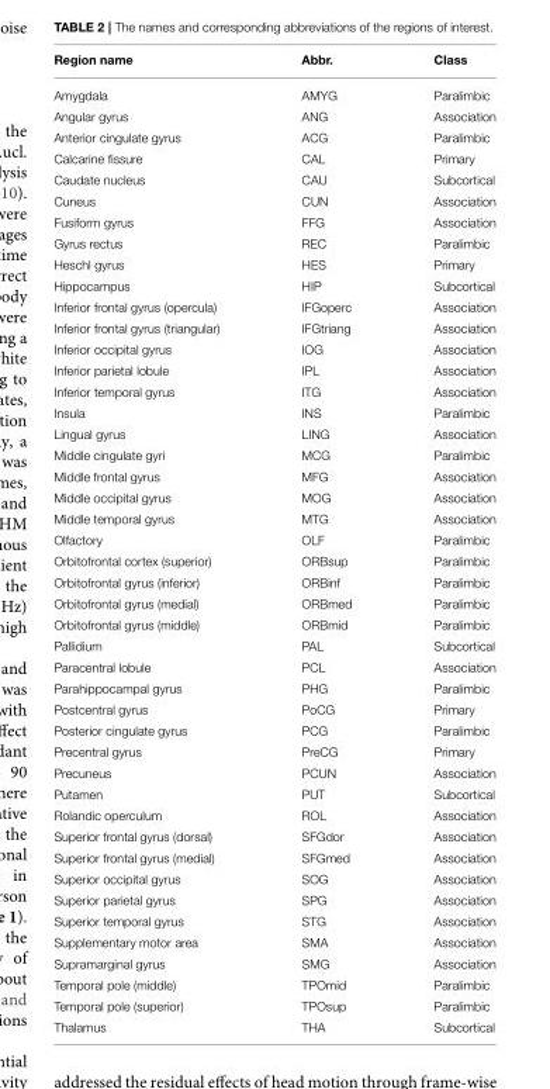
<table><thead><tr><td>Region name</td><td>Abbr.</td><td>Class</td></tr></thead><tbody><tr><td>Amygdala</td><td>AMYG</td><td>Paralimbic</td></tr><tr><td>Angular gyrus</td><td>ANG</td><td>Association</td></tr><tr><td>Anterior cingulate gyrus</td><td>ACG</td><td>Paralimbic</td></tr><tr><td>Calcarine fissure</td><td>CAL</td><td>Primary</td></tr><tr><td>Caudate nucleus</td><td>CAU</td><td>Subcortical</td></tr><tr><td>Cuneus</td><td>CUN</td><td>Association</td></tr><tr><td>Fusiform gyrus</td><td>FFG</td><td>Association</td></tr><tr><td>Gyrus rectus</td><td>REC</td><td>Paralimbic</td></tr><tr><td>Heschl gyrus</td><td>HES</td><td>Primary</td></tr><tr><td>Hippocampus</td><td>HIP</td><td>Subcortical</td></tr><tr><td>Inferior frontal gyrus (opercula)</td><td>IFGoperc</td><td>Association</td></tr><tr><td>Inferior frontal gyrus (triangular)</td><td>IFGtriang</td><td>Association</td></tr><tr><td>Inferior occipital gyrus</td><td>IOG</td><td>Association</td></tr><tr><td>Inferior parietal lobule</td><td>IPL</td><td>Association</td></tr><tr><td>Inferior temporal gyrus</td><td>ITG</td><td>Association</td></tr><tr><td>Insula</td><td>INS</td><td>Paralimbic</td></tr><tr><td>Lingual gyrus</td><td>LING</td><td>Association</td></tr><tr><td>Middle cingulate gyri</td><td>MCG</td><td>Paralimbic</td></tr><tr><td>Middle frontal gyrus</td><td>MFG</td><td>Association</td></tr><tr><td>Middle occipital gyrus</td><td>MOG</td><td>Association</td></tr><tr><td>Middle temporal gyrus</td><td>MTG</td><td>Association</td></tr><tr><td>Olfactory</td><td>OLF</td><td>Paralimbic</td></tr><tr><td>Orbitofrontal cortex (superior)</td><td>ORBsup</td><td>Paralimbic</td></tr><tr><td>Orbitofrontal gyrus (inferior)</td><td>ORBinf</td><td>Paralimbic</td></tr><tr><td>Orbitofrontal gyrus (medial)</td><td>ORBmed</td><td>Paralimbic</td></tr><tr><td>Orbitofrontal gyrus (middle)</td><td>ORBmid</td><td>Paralimbic</td></tr><tr><td>Pallidium</td><td>PAL</td><td>Subcortical</td></tr><tr><td>Paracentral lobule</td><td>PCL</td><td>Association</td></tr><tr><td>Parahippocampal gyrus</td><td>PHG</td><td>Paralimbic</td></tr><tr><td>Postcentral gyrus</td><td>PoCG</td><td>Primary</td></tr><tr><td>Posterior cingulate gyrus</td><td>PCG</td><td>Paralimbic</td></tr><tr><td>Precentral gyrus</td><td>PreCG</td><td>Primary</td></tr><tr><td>Precuneus</td><td>PCUN</td><td>Association</td></tr><tr><td>Putamen</td><td>PUT</td><td>Subcortical</td></tr><tr><td>Rolandic operculum</td><td>ROL</td><td>Association</td></tr><tr><td>Superior frontal gyrus (dorsal)</td><td>SFGdor</td><td>Association</td></tr><tr><td>Superior frontal gyrus (medial)</td><td>SFGmed</td><td>Association</td></tr><tr><td>Superior occipital gyrus</td><td>SOG</td><td>Association</td></tr><tr><td>Superior parietal gyrus</td><td>SPG</td><td>Association</td></tr><tr><td>Superior temporal gyrus</td><td>STG</td><td>Association</td></tr><tr><td>Supplementary motor area</td><td>SMA</td><td>Association</td></tr><tr><td>Supramarginal gyrus</td><td>SMG</td><td>Association</td></tr><tr><td>Temporal pole (middle)</td><td>TPOmid</td><td>Paralimbic</td></tr><tr><td>Temporal pole (superior)</td><td>TPOsup</td><td>Paralimbic</td></tr><tr><td>Thalamus</td><td>THA</td><td>Subcortical</td></tr></tbody></table>